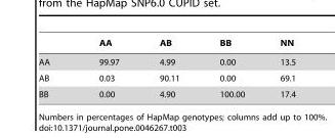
<table><thead><tr><td></td><td>AA</td><td>AB</td><td>BB</td><td>NN</td></tr></thead><tbody><tr><td>AA</td><td>99.97</td><td>4.99</td><td>0.00</td><td>13.5</td></tr><tr><td>AB</td><td>0.03</td><td>90.11</td><td>0.00</td><td>69.1</td></tr><tr><td>BB</td><td>0.00</td><td>4.90</td><td>100.00</td><td>17.4</td></tr></tbody></table>